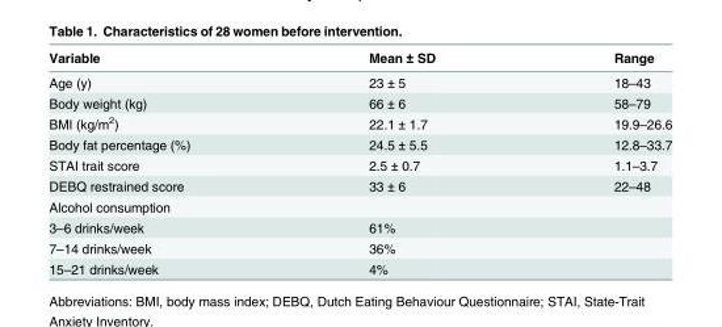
<table><thead><tr><td>Variable</td><td>Mean ± SD</td><td>Range</td></tr></thead><tbody><tr><td>Age (y)</td><td>23 ± 5</td><td>18–43</td></tr><tr><td>Body weight (kg)</td><td>66 ± 6</td><td>58–79</td></tr><tr><td>BMI (kg/m<sup>2</sup>)</td><td>22.1 ± 1.7</td><td>19.9–26.6</td></tr><tr><td>Body fat percentage (%)</td><td>24.5 ± 5.5</td><td>12.8–33.7</td></tr><tr><td>STAI trait score</td><td>2.5 ± 0.7</td><td>1.1–3.7</td></tr><tr><td>DEBQ restrained score</td><td>33 ± 6</td><td>22–48</td></tr><tr><td colspan="3">Alcohol consumption</td></tr><tr><td>3–6 drinks/week</td><td>61%</td><td></td></tr><tr><td>7–14 drinks/week</td><td>36%</td><td></td></tr><tr><td>15–21 drinks/week</td><td>4%</td><td></td></tr></tbody></table>